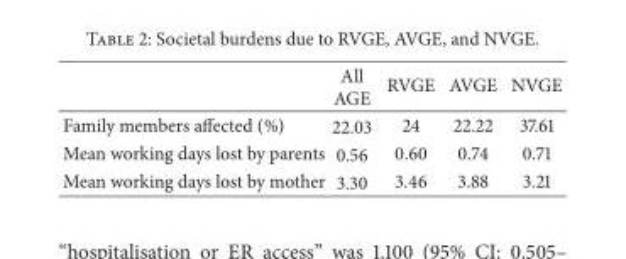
<table><thead><tr><td></td><td>All AGE</td><td>RVGE</td><td>AVGE</td><td>NVGE</td></tr></thead><tbody><tr><td>Family members affected (%)</td><td>22.03</td><td>24</td><td>22.22</td><td>37.61</td></tr><tr><td>Mean working days lost by parents</td><td>0.56</td><td>0.60</td><td>0.74</td><td>0.71</td></tr><tr><td>Mean working days lost by mother</td><td>3.30</td><td>3.46</td><td>3.88</td><td>3.21</td></tr></tbody></table>